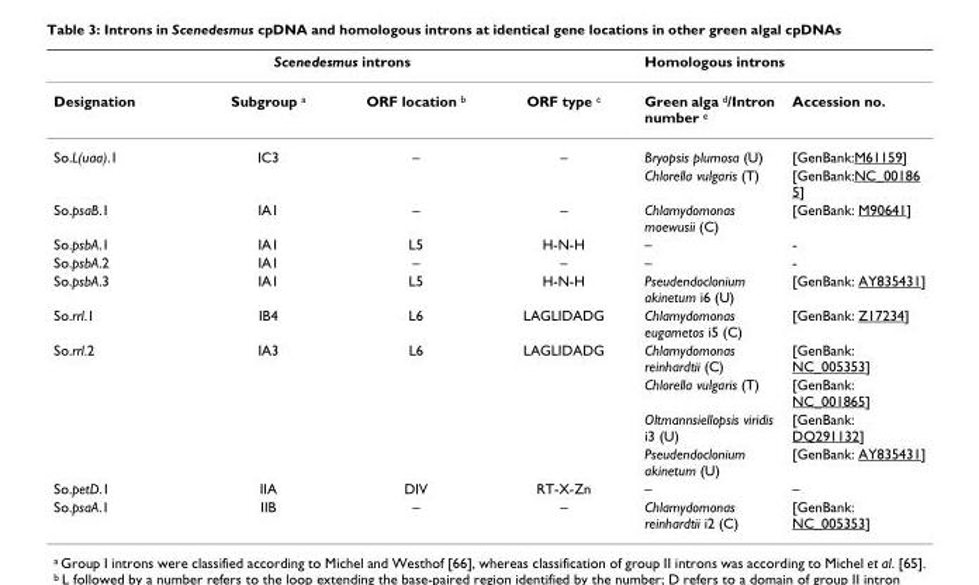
<table><thead><tr><td colspan="4">Scenedesmus introns</td><td colspan="2">Homologous introns</td></tr><tr><td>Designation</td><td>Subgroup <sup>a</sup></td><td>ORF location <sup>b</sup></td><td>ORF type <sup>c</sup></td><td>Green alga <sup>d</sup>/Intron number <sup>e</sup></td><td>Accession no.</td></tr></thead><tbody><tr><td rowspan="2">So.L(uaa).1</td><td>IC3</td><td>–</td><td>–</td><td>Bryopsis plumosa (U)</td><td>[GenBank:M61159]</td></tr><tr><td></td><td></td><td></td><td>Chlorella vulgaris (T)</td><td>[GenBank:NC_00186 5]</td></tr><tr><td>So.psaB.1</td><td>IA1</td><td>–</td><td>–</td><td>Chlamydomonas moewusii (C)</td><td>[GenBank: M90641]</td></tr><tr><td>So.psbA.1</td><td>IA1</td><td>L5</td><td>H-N-H</td><td>–</td><td>-</td></tr><tr><td>So.psbA.2</td><td>IA1</td><td>–</td><td>–</td><td>–</td><td>-</td></tr><tr><td>So.psbA.3</td><td>IA1</td><td>L5</td><td>H-N-H</td><td>Pseudendoclonium akinetum i6 (U)</td><td>[GenBank: AY835431]</td></tr><tr><td>So.rrl.1</td><td>IB4</td><td>L6</td><td>LAGLIDADG</td><td>Chlamydomonas eugametos i5 (C)</td><td>[GenBank: Z17234]</td></tr><tr><td rowspan="4">So.rrl.2</td><td>IA3</td><td>L6</td><td>LAGLIDADG</td><td>Chlamydomonas reinhardtii (C)</td><td>[GenBank: NC_005353]</td></tr><tr><td></td><td></td><td></td><td>Chlorella vulgaris (T)</td><td>[GenBank: NC_001865]</td></tr><tr><td></td><td></td><td></td><td>Oltmannsiellopsis viridis i3 (U)</td><td>[GenBank: DQ291132]</td></tr><tr><td></td><td></td><td></td><td>Pseudendoclonium akinetum (U)</td><td>[GenBank: AY835431]</td></tr><tr><td>So.petD.1</td><td>IIA</td><td>DIV</td><td>RT-X-Zn</td><td>–</td><td>–</td></tr><tr><td>So.psaA.1</td><td>IIB</td><td>–</td><td>–</td><td>Chlamydomonas reinhardtii i2 (C)</td><td>[GenBank: NC_005353]</td></tr></tbody></table>